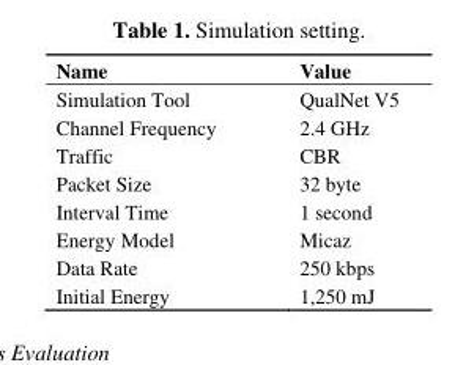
<table><thead><tr><td>Name</td><td>Value</td></tr></thead><tbody><tr><td>Simulation Tool</td><td>QualNet V5</td></tr><tr><td>Channel Frequency</td><td>2.4 GHz</td></tr><tr><td>Traffic</td><td>CBR</td></tr><tr><td>Packet Size</td><td>32 byte</td></tr><tr><td>Interval Time</td><td>1 second</td></tr><tr><td>Energy Model</td><td>Micaz</td></tr><tr><td>Data Rate</td><td>250 kbps</td></tr><tr><td>Initial Energy</td><td>1,250 mJ</td></tr></tbody></table>